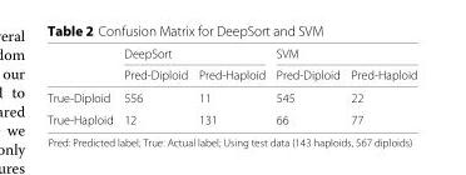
<table><thead><tr><td rowspan="2"></td><td colspan="2">DeepSort</td><td colspan="2">SVM</td></tr><tr><td>Pred-Diploid</td><td>Pred-Haploid</td><td>Pred-Diploid</td><td>Pred-Haploid</td></tr></thead><tbody><tr><td>True-Diploid</td><td>556</td><td>11</td><td>545</td><td>22</td></tr><tr><td>True-Haploid</td><td>12</td><td>131</td><td>66</td><td>77</td></tr></tbody></table>